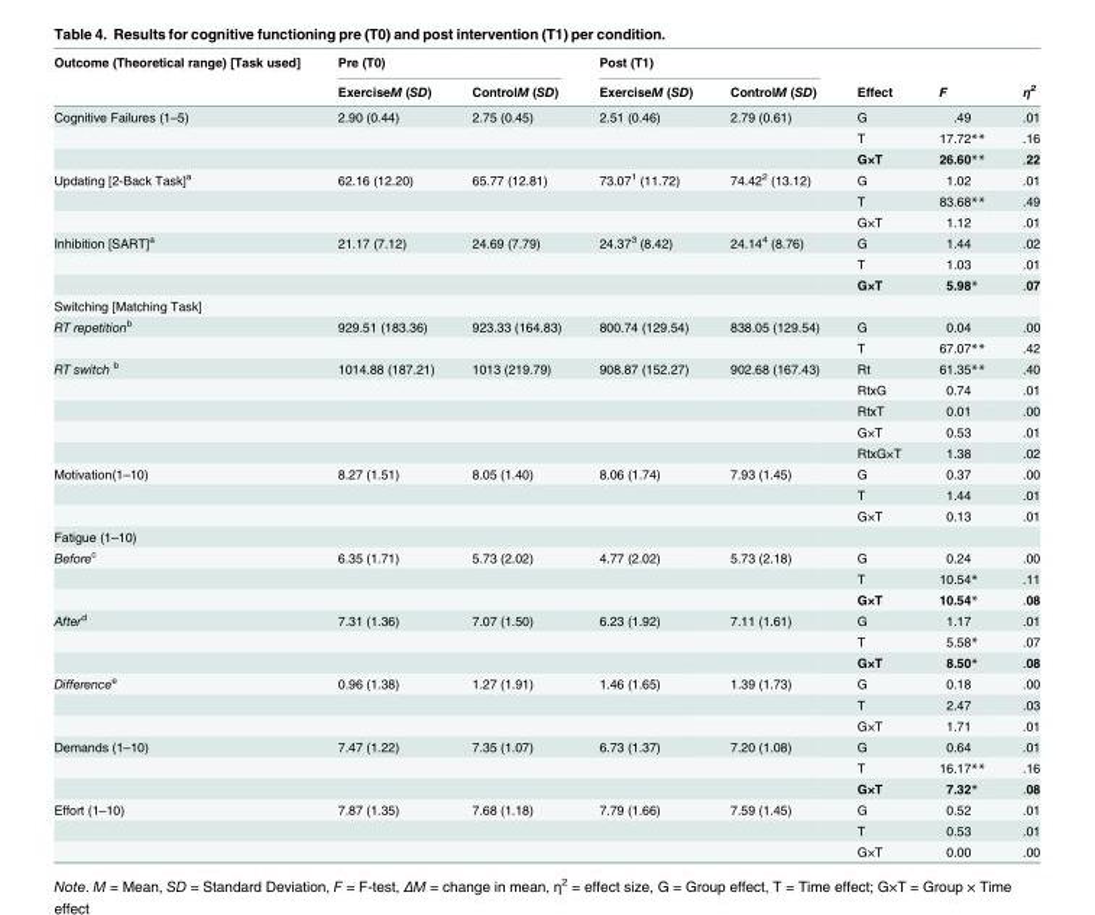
<table><thead><tr><td rowspan="2">Outcome (Theoretical range) [Task used]</td><td colspan="2">Pre (T0)</td><td colspan="2">Post (T1)</td><td rowspan="2">Effect</td><td rowspan="2">F</td><td rowspan="2">η<sup>2</sup></td></tr><tr><td>ExerciseM (SD)</td><td>ControlM (SD)</td><td>ExerciseM (SD)</td><td>ControlM (SD)</td></tr></thead><tbody><tr><td rowspan="3">Cognitive Failures (1–5)</td><td>2.90 (0.44)</td><td>2.75 (0.45)</td><td>2.51 (0.46)</td><td>2.79 (0.61)</td><td>G</td><td>.49</td><td>.01</td></tr><tr><td></td><td></td><td></td><td></td><td>T</td><td>17.72**</td><td>.16</td></tr><tr><td></td><td></td><td></td><td></td><td>G×T</td><td>26.60**</td><td>.22</td></tr><tr><td rowspan="3">Updating [2-Back Task]<sup>a</sup></td><td>62.16 (12.20)</td><td>65.77 (12.81)</td><td>73.07<sup>1</sup> (11.72)</td><td>74.42<sup>2</sup> (13.12)</td><td>G</td><td>1.02</td><td>.01</td></tr><tr><td></td><td></td><td></td><td></td><td>T</td><td>83.68**</td><td>.49</td></tr><tr><td></td><td></td><td></td><td></td><td>G×T</td><td>1.12</td><td>.01</td></tr><tr><td rowspan="3">Inhibition [SART]<sup>a</sup></td><td>21.17 (7.12)</td><td>24.69 (7.79)</td><td>24.37<sup>3</sup> (8.42)</td><td>24.14<sup>4</sup> (8.76)</td><td>G</td><td>1.44</td><td>.02</td></tr><tr><td></td><td></td><td></td><td></td><td>T</td><td>1.03</td><td>.01</td></tr><tr><td></td><td></td><td></td><td></td><td>G×T</td><td>5.98*</td><td>.07</td></tr><tr><td colspan="8">Switching [Matching Task]</td></tr><tr><td rowspan="2">RT repetition<sup>b</sup></td><td>929.51 (183.36)</td><td>923.33 (164.83)</td><td>800.74 (129.54)</td><td>838.05 (129.54)</td><td>G</td><td>0.04</td><td>.00</td></tr><tr><td></td><td></td><td></td><td></td><td>T</td><td>67.07**</td><td>.42</td></tr><tr><td rowspan="5">RT switch <sup>b</sup></td><td>1014.88 (187.21)</td><td>1013 (219.79)</td><td>908.87 (152.27)</td><td>902.68 (167.43)</td><td>Rt</td><td>61.35**</td><td>.40</td></tr><tr><td></td><td></td><td></td><td></td><td>RtxG</td><td>0.74</td><td>.01</td></tr><tr><td></td><td></td><td></td><td></td><td>RtxT</td><td>0.01</td><td>.00</td></tr><tr><td></td><td></td><td></td><td></td><td>G×T</td><td>0.53</td><td>.01</td></tr><tr><td></td><td></td><td></td><td></td><td>RtxG×T</td><td>1.38</td><td>.02</td></tr><tr><td rowspan="3">Motivation(1–10)</td><td>8.27 (1.51)</td><td>8.05 (1.40)</td><td>8.06 (1.74)</td><td>7.93 (1.45)</td><td>G</td><td>0.37</td><td>.00</td></tr><tr><td></td><td></td><td></td><td></td><td>T</td><td>1.44</td><td>.01</td></tr><tr><td></td><td></td><td></td><td></td><td>G×T</td><td>0.13</td><td>.01</td></tr><tr><td colspan="8">Fatigue (1–10)</td></tr><tr><td rowspan="3">Before<sup>c</sup></td><td>6.35 (1.71)</td><td>5.73 (2.02)</td><td>4.77 (2.02)</td><td>5.73 (2.18)</td><td>G</td><td>0.24</td><td>.00</td></tr><tr><td></td><td></td><td></td><td></td><td>T</td><td>10.54*</td><td>.11</td></tr><tr><td></td><td></td><td></td><td></td><td>G×T</td><td>10.54*</td><td>.08</td></tr><tr><td rowspan="3">After<sup>d</sup></td><td>7.31 (1.36)</td><td>7.07 (1.50)</td><td>6.23 (1.92)</td><td>7.11 (1.61)</td><td>G</td><td>1.17</td><td>.01</td></tr><tr><td></td><td></td><td></td><td></td><td>T</td><td>5.58*</td><td>.07</td></tr><tr><td></td><td></td><td></td><td></td><td>G×T</td><td>8.50*</td><td>.08</td></tr><tr><td rowspan="3">Difference<sup>e</sup></td><td>0.96 (1.38)</td><td>1.27 (1.91)</td><td>1.46 (1.65)</td><td>1.39 (1.73)</td><td>G</td><td>0.18</td><td>.00</td></tr><tr><td></td><td></td><td></td><td></td><td>T</td><td>2.47</td><td>.03</td></tr><tr><td></td><td></td><td></td><td></td><td>G×T</td><td>1.71</td><td>.01</td></tr><tr><td rowspan="3">Demands (1–10)</td><td>7.47 (1.22)</td><td>7.35 (1.07)</td><td>6.73 (1.37)</td><td>7.20 (1.08)</td><td>G</td><td>0.64</td><td>.01</td></tr><tr><td></td><td></td><td></td><td></td><td>T</td><td>16.17**</td><td>.16</td></tr><tr><td></td><td></td><td></td><td></td><td>G×T</td><td>7.32*</td><td>.08</td></tr><tr><td rowspan="3">Effort (1–10)</td><td>7.87 (1.35)</td><td>7.68 (1.18)</td><td>7.79 (1.66)</td><td>7.59 (1.45)</td><td>G</td><td>0.52</td><td>.01</td></tr><tr><td></td><td></td><td></td><td></td><td>T</td><td>0.53</td><td>.01</td></tr><tr><td></td><td></td><td></td><td></td><td>G×T</td><td>0.00</td><td>.00</td></tr></tbody></table>